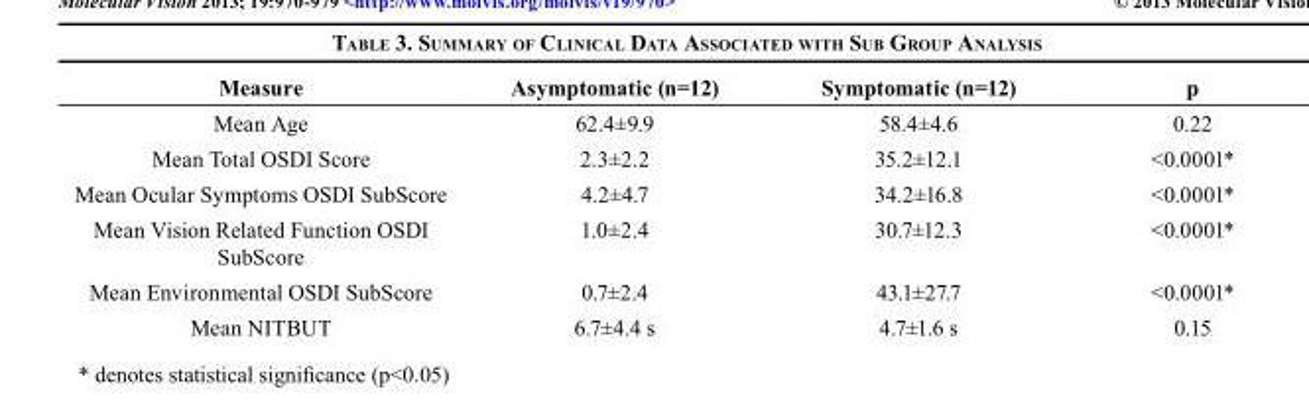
<table><thead><tr><td>Measure</td><td>Asymptomatic (n=12)</td><td>Symptomatic (n=12)</td><td>p</td></tr></thead><tbody><tr><td>Mean Age</td><td>62.4±9.9</td><td>58.4±4.6</td><td>0.22</td></tr><tr><td>Mean Total OSDI Score</td><td>2.3±2.2</td><td>35.2±12.1</td><td>&lt;0.0001*</td></tr><tr><td>Mean Ocular Symptoms OSDI SubScore</td><td>4.2±4.7</td><td>34.2±16.8</td><td>&lt;0.0001*</td></tr><tr><td>Mean Vision Related Function OSDI SubScore</td><td>1.0±2.4</td><td>30.7±12.3</td><td>&lt;0.0001*</td></tr><tr><td>Mean Environmental OSDI SubScore</td><td>0.7±2.4</td><td>43.1±27.7</td><td>&lt;0.0001*</td></tr><tr><td>Mean NITBUT</td><td>6.7±4.4 s</td><td>4.7±1.6 s</td><td>0.15</td></tr></tbody></table>